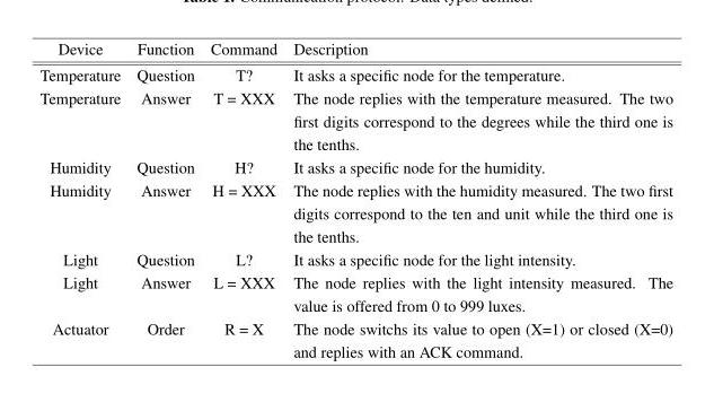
<table><thead><tr><td>Device</td><td>Function</td><td>Command</td><td>Description</td></tr></thead><tbody><tr><td>Temperature</td><td>Question</td><td>T?</td><td>It asks a specific node for the temperature.</td></tr><tr><td>Temperature</td><td>Answer</td><td>T = XXX</td><td>The node replies with the temperature measured. The two first digits correspond to the degrees while the third one is the tenths.</td></tr><tr><td>Humidity</td><td>Question</td><td>H?</td><td>It asks a specific node for the humidity.</td></tr><tr><td>Humidity</td><td>Answer</td><td>H = XXX</td><td>The node replies with the humidity measured. The two first digits correspond to the ten and unit while the third one is the tenths.</td></tr><tr><td>Light</td><td>Question</td><td>L?</td><td>It asks a specific node for the light intensity.</td></tr><tr><td>Light</td><td>Answer</td><td>L = XXX</td><td>The node replies with the light intensity measured. The value is offered from 0 to 999 luxes.</td></tr><tr><td>Actuator</td><td>Order</td><td>R = X</td><td>The node switchs its value to open (X=1) or closed (X=0) and replies with an ACK command.</td></tr></tbody></table>